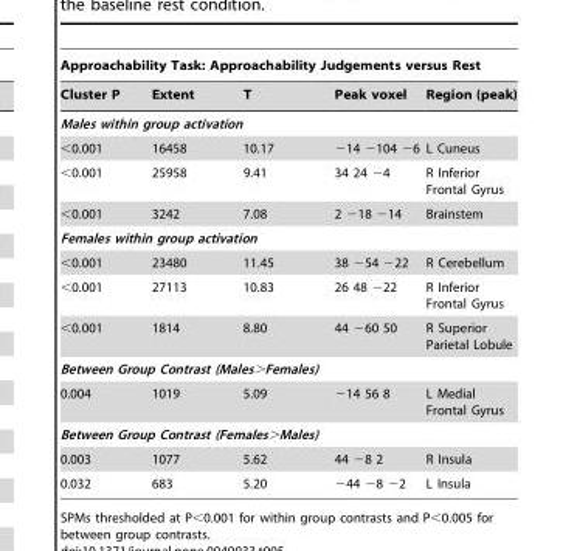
<table><thead><tr><td colspan="5">Approachability Task: Approachability Judgements versus Rest</td></tr><tr><td>Cluster P</td><td>Extent</td><td>T</td><td>Peak voxel</td><td>Region (peak)</td></tr></thead><tbody><tr><td colspan="5">Males within group activation</td></tr><tr><td>&lt;0.001</td><td>16458</td><td>10.17</td><td>−14 −104 −6</td><td>L Cuneus</td></tr><tr><td>&lt;0.001</td><td>25958</td><td>9.41</td><td>34 24 −4</td><td>R Inferior Frontal Gyrus</td></tr><tr><td>&lt;0.001</td><td>3242</td><td>7.08</td><td>2 −18 −14</td><td>Brainstem</td></tr><tr><td colspan="5">Females within group activation</td></tr><tr><td>&lt;0.001</td><td>23480</td><td>11.45</td><td>38 −54 −22</td><td>R Cerebellum</td></tr><tr><td>&lt;0.001</td><td>27113</td><td>10.83</td><td>26 48 −22</td><td>R Inferior Frontal Gyrus</td></tr><tr><td>&lt;0.001</td><td>1814</td><td>8.80</td><td>44 −60 50</td><td>R Superior Parietal Lobule</td></tr><tr><td colspan="5">Between Group Contrast (Males&gt;Females)</td></tr><tr><td>0.004</td><td>1019</td><td>5.09</td><td>−14 56 8</td><td>L Medial Frontal Gyrus</td></tr><tr><td colspan="5">Between Group Contrast (Females&gt;Males)</td></tr><tr><td>0.003</td><td>1077</td><td>5.62</td><td>44 −8 2</td><td>R Insula</td></tr><tr><td>0.032</td><td>683</td><td>5.20</td><td>−44 −8 −2</td><td>L Insula</td></tr></tbody></table>